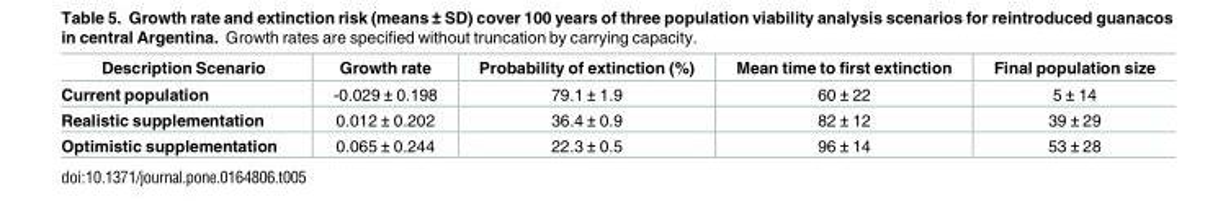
<table><thead><tr><td>Description Scenario</td><td>Growth rate</td><td>Probability of extinction (%)</td><td>Mean time to first extinction</td><td>Final population size</td></tr></thead><tbody><tr><td>Current population</td><td>-0.029 ± 0.198</td><td>79.1 ± 1.9</td><td>60 ± 22</td><td>5 ± 14</td></tr><tr><td>Realistic supplementation</td><td>0.012 ± 0.202</td><td>36.4 ± 0.9</td><td>82 ± 12</td><td>39 ± 29</td></tr><tr><td>Optimistic supplementation</td><td>0.065 ± 0.244</td><td>22.3 ± 0.5</td><td>96 ± 14</td><td>53 ± 28</td></tr></tbody></table>